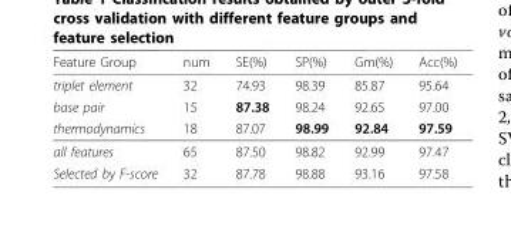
<table><thead><tr><td>Feature Group</td><td>num</td><td>SE(%)</td><td>SP(%)</td><td>Gm(%)</td><td>Acc(%)</td></tr></thead><tbody><tr><td>triplet element</td><td>32</td><td>74.93</td><td>98.39</td><td>85.87</td><td>95.64</td></tr><tr><td>base pair</td><td>15</td><td>87.38</td><td>98.24</td><td>92.65</td><td>97.00</td></tr><tr><td>thermodynamics</td><td>18</td><td>87.07</td><td>98.99</td><td>92.84</td><td>97.59</td></tr><tr><td>all features</td><td>65</td><td>87.50</td><td>98.82</td><td>92.99</td><td>97.47</td></tr><tr><td>Selected by F-score</td><td>32</td><td>87.78</td><td>98.88</td><td>93.16</td><td>97.58</td></tr></tbody></table>